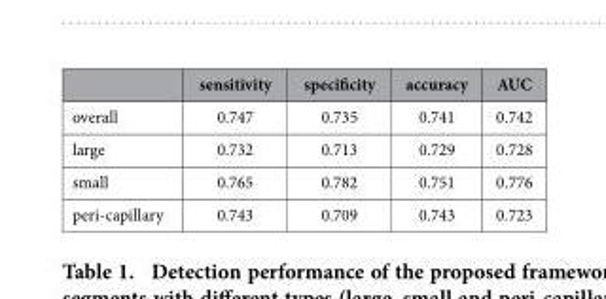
<table><thead><tr><td></td><td>sensitivity</td><td>specificity</td><td>accuracy</td><td>AUC</td></tr></thead><tbody><tr><td>overall</td><td>0.747</td><td>0.735</td><td>0.741</td><td>0.742</td></tr><tr><td>large</td><td>0.732</td><td>0.713</td><td>0.729</td><td>0.728</td></tr><tr><td>small</td><td>0.765</td><td>0.782</td><td>0.751</td><td>0.776</td></tr><tr><td>peri-capillary</td><td>0.743</td><td>0.709</td><td>0.743</td><td>0.723</td></tr></tbody></table>